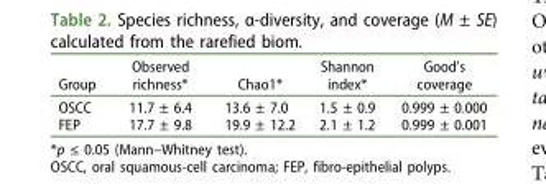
<table><thead><tr><td>Group</td><td>Observed richness*</td><td>Chao1*</td><td>Shannon index*</td><td>Good’s coverage</td></tr></thead><tbody><tr><td>OSCC</td><td>11.7 ± 6.4</td><td>13.6 ± 7.0</td><td>1.5 ± 0.9</td><td>0.999 ± 0.000</td></tr><tr><td>FEP</td><td>17.7 ± 9.8</td><td>19.9 ± 12.2</td><td>2.1 ± 1.2</td><td>0.999 ± 0.001</td></tr></tbody></table>